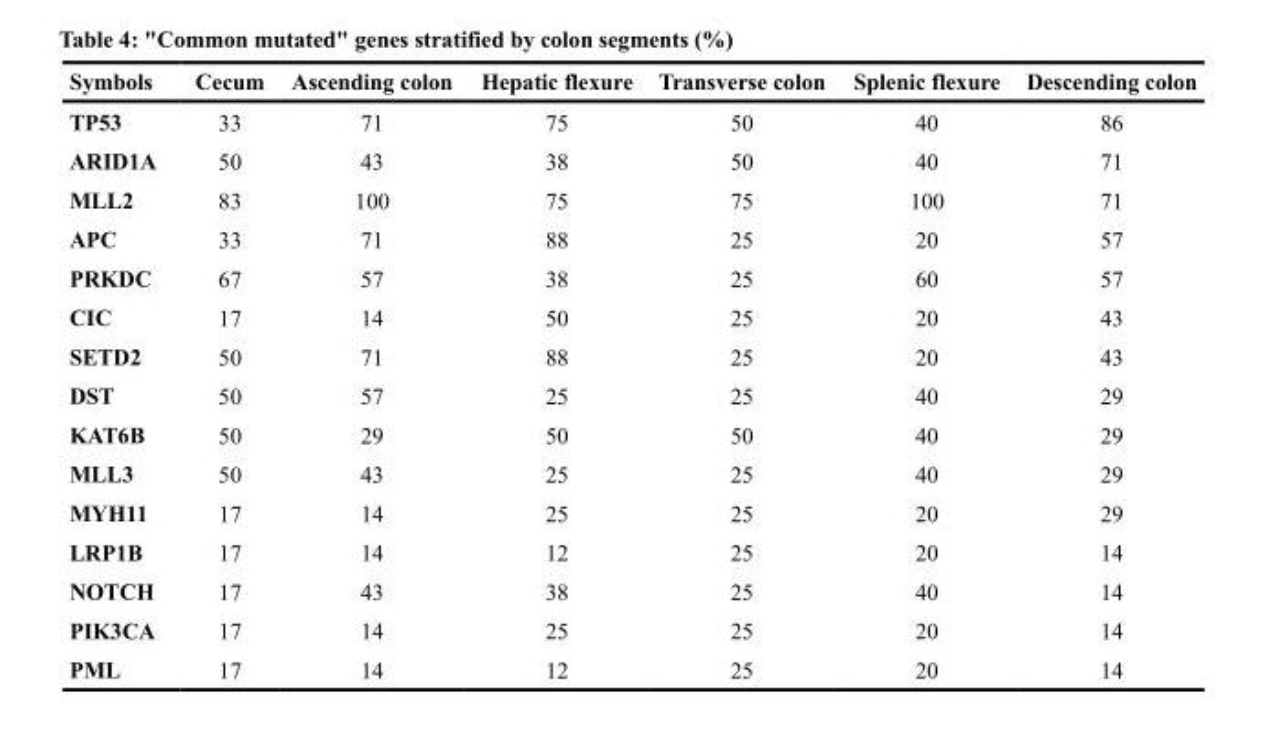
<table><thead><tr><td>Symbols</td><td>Cecum</td><td>Ascending colon</td><td>Hepatic flexure</td><td>Transverse colon</td><td>Splenic flexure</td><td>Descending colon</td></tr></thead><tbody><tr><td>TP53</td><td>33</td><td>71</td><td>75</td><td>50</td><td>40</td><td>86</td></tr><tr><td>ARID1A</td><td>50</td><td>43</td><td>38</td><td>50</td><td>40</td><td>71</td></tr><tr><td>MLL2</td><td>83</td><td>100</td><td>75</td><td>75</td><td>100</td><td>71</td></tr><tr><td>APC</td><td>33</td><td>71</td><td>88</td><td>25</td><td>20</td><td>57</td></tr><tr><td>PRKDC</td><td>67</td><td>57</td><td>38</td><td>25</td><td>60</td><td>57</td></tr><tr><td>CIC</td><td>17</td><td>14</td><td>50</td><td>25</td><td>20</td><td>43</td></tr><tr><td>SETD2</td><td>50</td><td>71</td><td>88</td><td>25</td><td>20</td><td>43</td></tr><tr><td>DST</td><td>50</td><td>57</td><td>25</td><td>25</td><td>40</td><td>29</td></tr><tr><td>KAT6B</td><td>50</td><td>29</td><td>50</td><td>50</td><td>40</td><td>29</td></tr><tr><td>MLL3</td><td>50</td><td>43</td><td>25</td><td>25</td><td>40</td><td>29</td></tr><tr><td>MYH11</td><td>17</td><td>14</td><td>25</td><td>25</td><td>20</td><td>29</td></tr><tr><td>LRP1B</td><td>17</td><td>14</td><td>12</td><td>25</td><td>20</td><td>14</td></tr><tr><td>NOTCH</td><td>17</td><td>43</td><td>38</td><td>25</td><td>40</td><td>14</td></tr><tr><td>PIK3CA</td><td>17</td><td>14</td><td>25</td><td>25</td><td>20</td><td>14</td></tr><tr><td>PML</td><td>17</td><td>14</td><td>12</td><td>25</td><td>20</td><td>14</td></tr></tbody></table>